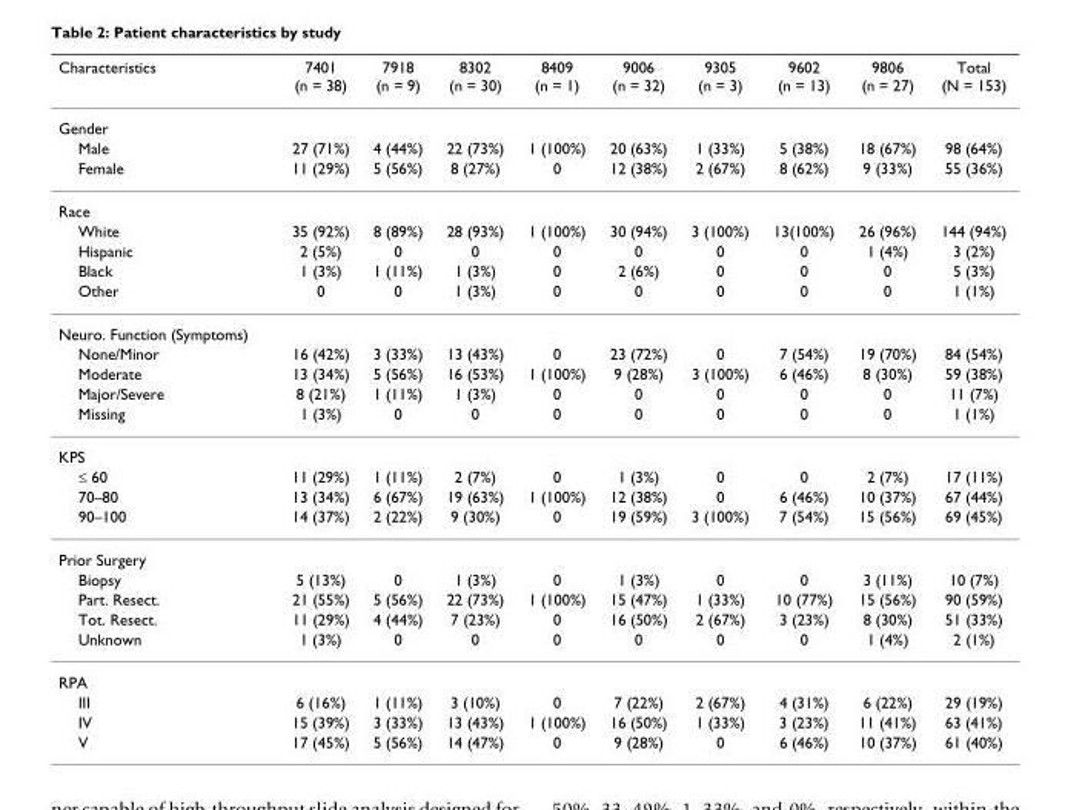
<table><thead><tr><td>Characteristics</td><td>7401 (n = 38)</td><td>7918 (n = 9)</td><td>8302 (n = 30)</td><td>8409 (n = 1)</td><td>9006 (n = 32)</td><td>9305 (n = 3)</td><td>9602 (n = 13)</td><td>9806 (n = 27)</td><td>Total (N = 153)</td></tr></thead><tbody><tr><td colspan="10">Gender</td></tr><tr><td>Male</td><td>27 (71%)</td><td>4 (44%)</td><td>22 (73%)</td><td>1 (100%)</td><td>20 (63%)</td><td>1 (33%)</td><td>5 (38%)</td><td>18 (67%)</td><td>98 (64%)</td></tr><tr><td>Female</td><td>11 (29%)</td><td>5 (56%)</td><td>8 (27%)</td><td>0</td><td>12 (38%)</td><td>2 (67%)</td><td>8 (62%)</td><td>9 (33%)</td><td>55 (36%)</td></tr><tr><td colspan="10">Race</td></tr><tr><td>White</td><td>35 (92%)</td><td>8 (89%)</td><td>28 (93%)</td><td>1 (100%)</td><td>30 (94%)</td><td>3 (100%)</td><td>13(100%)</td><td>26 (96%)</td><td>144 (94%)</td></tr><tr><td>Hispanic</td><td>2 (5%)</td><td>0</td><td>0</td><td>0</td><td>0</td><td>0</td><td>0</td><td>1 (4%)</td><td>3 (2%)</td></tr><tr><td>Black</td><td>1 (3%)</td><td>1 (11%)</td><td>1 (3%)</td><td>0</td><td>2 (6%)</td><td>0</td><td>0</td><td>0</td><td>5 (3%)</td></tr><tr><td>Other</td><td>0</td><td>0</td><td>1 (3%)</td><td>0</td><td>0</td><td>0</td><td>0</td><td>0</td><td>1 (1%)</td></tr><tr><td colspan="10">Neuro. Function (Symptoms)</td></tr><tr><td>None/Minor</td><td>16 (42%)</td><td>3 (33%)</td><td>13 (43%)</td><td>0</td><td>23 (72%)</td><td>0</td><td>7 (54%)</td><td>19 (70%)</td><td>84 (54%)</td></tr><tr><td>Moderate</td><td>13 (34%)</td><td>5 (56%)</td><td>16 (53%)</td><td>1 (100%)</td><td>9 (28%)</td><td>3 (100%)</td><td>6 (46%)</td><td>8 (30%)</td><td>59 (38%)</td></tr><tr><td>Major/Severe</td><td>8 (21%)</td><td>1 (11%)</td><td>1 (3%)</td><td>0</td><td>0</td><td>0</td><td>0</td><td>0</td><td>11 (7%)</td></tr><tr><td>Missing</td><td>1 (3%)</td><td>0</td><td>0</td><td>0</td><td>0</td><td>0</td><td>0</td><td>0</td><td>1 (1%)</td></tr><tr><td colspan="10">KPS</td></tr><tr><td>≤ 60</td><td>11 (29%)</td><td>1 (11%)</td><td>2 (7%)</td><td>0</td><td>1 (3%)</td><td>0</td><td>0</td><td>2 (7%)</td><td>17 (11%)</td></tr><tr><td>70–80</td><td>13 (34%)</td><td>6 (67%)</td><td>19 (63%)</td><td>1 (100%)</td><td>12 (38%)</td><td>0</td><td>6 (46%)</td><td>10 (37%)</td><td>67 (44%)</td></tr><tr><td>90–100</td><td>14 (37%)</td><td>2 (22%)</td><td>9 (30%)</td><td>0</td><td>19 (59%)</td><td>3 (100%)</td><td>7 (54%)</td><td>15 (56%)</td><td>69 (45%)</td></tr><tr><td colspan="10">Prior Surgery</td></tr><tr><td>Biopsy</td><td>5 (13%)</td><td>0</td><td>1 (3%)</td><td>0</td><td>1 (3%)</td><td>0</td><td>0</td><td>3 (11%)</td><td>10 (7%)</td></tr><tr><td>Part. Resect.</td><td>21 (55%)</td><td>5 (56%)</td><td>22 (73%)</td><td>1 (100%)</td><td>15 (47%)</td><td>1 (33%)</td><td>10 (77%)</td><td>15 (56%)</td><td>90 (59%)</td></tr><tr><td>Tot. Resect.</td><td>11 (29%)</td><td>4 (44%)</td><td>7 (23%)</td><td>0</td><td>16 (50%)</td><td>2 (67%)</td><td>3 (23%)</td><td>8 (30%)</td><td>51 (33%)</td></tr><tr><td>Unknown</td><td>1 (3%)</td><td>0</td><td>0</td><td>0</td><td>0</td><td>0</td><td>0</td><td>1 (4%)</td><td>2 (1%)</td></tr><tr><td colspan="10">RPA</td></tr><tr><td>III</td><td>6 (16%)</td><td>1 (11%)</td><td>3 (10%)</td><td>0</td><td>7 (22%)</td><td>2 (67%)</td><td>4 (31%)</td><td>6 (22%)</td><td>29 (19%)</td></tr><tr><td>IV</td><td>15 (39%)</td><td>3 (33%)</td><td>13 (43%)</td><td>1 (100%)</td><td>16 (50%)</td><td>1 (33%)</td><td>3 (23%)</td><td>11 (41%)</td><td>63 (41%)</td></tr><tr><td>V</td><td>17 (45%)</td><td>5 (56%)</td><td>14 (47%)</td><td>0</td><td>9 (28%)</td><td>0</td><td>6 (46%)</td><td>10 (37%)</td><td>61 (40%)</td></tr></tbody></table>